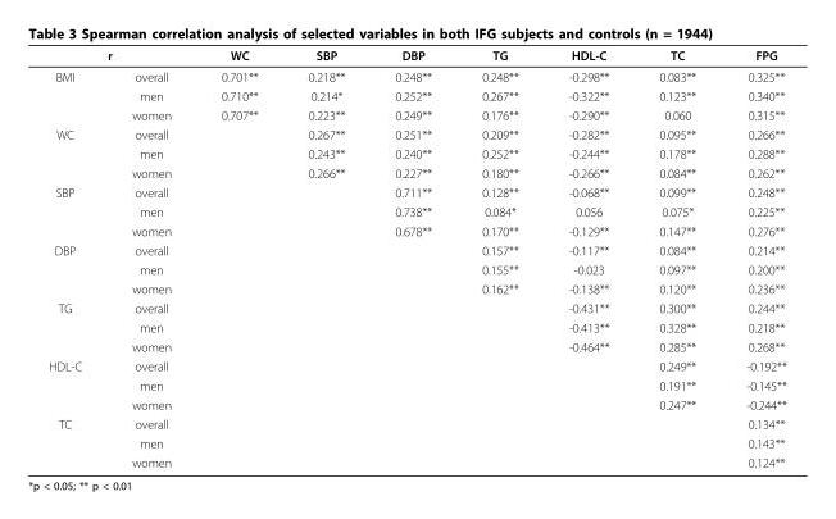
<table><thead><tr><td colspan="2">r</td><td rowspan="2">WC 0.701**</td><td rowspan="2">SBP 0.218**</td><td rowspan="2">DBP 0.248**</td><td rowspan="2">TG 0.248**</td><td rowspan="2">HDL-C -0.298**</td><td rowspan="2">TC 0.083**</td><td rowspan="2">FPG 0.325**</td></tr><tr><td>BMI</td><td>overall</td></tr></thead><tbody><tr><td></td><td>men</td><td>0.710**</td><td>0.214*</td><td>0.252**</td><td>0.267**</td><td>-0.322**</td><td>0.123**</td><td>0.340**</td></tr><tr><td></td><td>women</td><td>0.707**</td><td>0.223**</td><td>0.249**</td><td>0.176**</td><td>-0.290**</td><td>0.060</td><td>0.315**</td></tr><tr><td rowspan="3">WC</td><td>overall</td><td></td><td>0.267**</td><td>0.251**</td><td>0.209**</td><td>-0.282**</td><td>0.095**</td><td>0.266**</td></tr><tr><td>men</td><td></td><td>0.243**</td><td>0.240**</td><td>0.252**</td><td>-0.244**</td><td>0.178**</td><td>0.288**</td></tr><tr><td>women</td><td></td><td>0.266**</td><td>0.227**</td><td>0.180**</td><td>-0.266**</td><td>0.084**</td><td>0.262**</td></tr><tr><td rowspan="3">SBP</td><td>overall</td><td></td><td></td><td>0.711**</td><td>0.128**</td><td>-0.068**</td><td>0.099**</td><td>0.248**</td></tr><tr><td>men</td><td></td><td></td><td>0.738**</td><td>0.084*</td><td>0.056</td><td>0.075*</td><td>0.225**</td></tr><tr><td>women</td><td></td><td></td><td>0.678**</td><td>0.170**</td><td>-0.129**</td><td>0.147**</td><td>0.276**</td></tr><tr><td rowspan="3">DBP</td><td>overall</td><td></td><td></td><td></td><td>0.157**</td><td>-0.117**</td><td>0.084**</td><td>0.214**</td></tr><tr><td>men</td><td></td><td></td><td></td><td>0.155**</td><td>-0.023</td><td>0.097**</td><td>0.200**</td></tr><tr><td>women</td><td></td><td></td><td></td><td>0.162**</td><td>-0.138**</td><td>0.120**</td><td>0.236**</td></tr><tr><td rowspan="3">TG</td><td>overall</td><td></td><td></td><td></td><td></td><td>-0.431**</td><td>0.300**</td><td>0.244**</td></tr><tr><td>men</td><td></td><td></td><td></td><td></td><td>-0.413**</td><td>0.328**</td><td>0.218**</td></tr><tr><td>women</td><td></td><td></td><td></td><td></td><td>-0.464**</td><td>0.285**</td><td>0.268**</td></tr><tr><td rowspan="3">HDL-C</td><td>overall</td><td></td><td></td><td></td><td></td><td></td><td>0.249**</td><td>-0.192**</td></tr><tr><td>men</td><td></td><td></td><td></td><td></td><td></td><td>0.191**</td><td>-0.145**</td></tr><tr><td>women</td><td></td><td></td><td></td><td></td><td></td><td>0.247**</td><td>-0.244**</td></tr><tr><td rowspan="3">TC</td><td>overall</td><td></td><td></td><td></td><td></td><td></td><td></td><td>0.134**</td></tr><tr><td>men</td><td></td><td></td><td></td><td></td><td></td><td></td><td>0.143**</td></tr><tr><td>women</td><td></td><td></td><td></td><td></td><td></td><td></td><td>0.124**</td></tr></tbody></table>